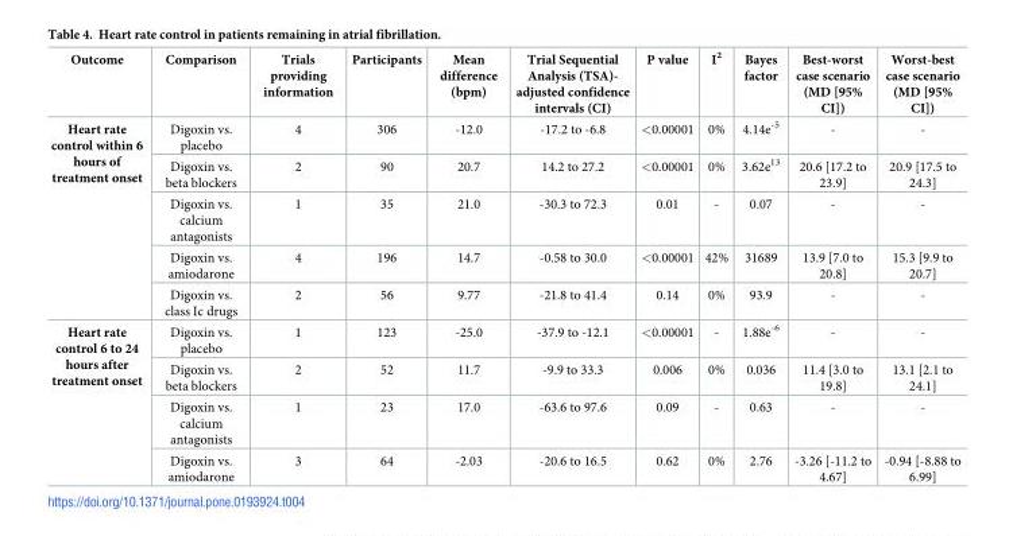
<table><thead><tr><td>Outcome</td><td>Comparison</td><td>Trials providing information</td><td>Participants</td><td>Mean difference (bpm)</td><td>Trial Sequential Analysis (TSA)- adjusted confidence intervals (CI)</td><td>P value</td><td>I<sup>2</sup></td><td>Bayes factor</td><td>Best-worst case scenario (MD [95% CI])</td><td>Worst-best case scenario (MD [95% CI])</td></tr></thead><tbody><tr><td rowspan="5">Heart rate control within 6 hours of treatment onset</td><td>Digoxin vs. placebo</td><td>4</td><td>306</td><td>-12.0</td><td>-17.2 to -6.8</td><td>&lt;0.00001</td><td>0%</td><td>4.14e<sup>-5</sup></td><td>-</td><td>-</td></tr><tr><td>Digoxin vs. beta blockers</td><td>2</td><td>90</td><td>20.7</td><td>14.2 to 27.2</td><td>&lt;0.00001</td><td>0%</td><td>3.62e<sup>13</sup></td><td>20.6 [17.2 to 23.9]</td><td>20.9 [17.5 to 24.3]</td></tr><tr><td>Digoxin vs. calcium antagonists</td><td>1</td><td>35</td><td>21.0</td><td>-30.3 to 72.3</td><td>0.01</td><td>-</td><td>0.07</td><td>-</td><td>-</td></tr><tr><td>Digoxin vs. amiodarone</td><td>4</td><td>196</td><td>14.7</td><td>-0.58 to 30.0</td><td>&lt;0.00001</td><td>42%</td><td>31689</td><td>13.9 [7.0 to 20.8]</td><td>15.3 [9.9 to 20.7]</td></tr><tr><td>Digoxin vs. class Ic drugs</td><td>2</td><td>56</td><td>9.77</td><td>-21.8 to 41.4</td><td>0.14</td><td>0%</td><td>93.9</td><td>-</td><td>-</td></tr><tr><td rowspan="4">Heart rate control 6 to 24 hours after treatment onset</td><td>Digoxin vs. placebo</td><td>1</td><td>123</td><td>-25.0</td><td>-37.9 to -12.1</td><td>&lt;0.00001</td><td>-</td><td>1.88e<sup>-6</sup></td><td>-</td><td>-</td></tr><tr><td>Digoxin vs. beta blockers</td><td>2</td><td>52</td><td>11.7</td><td>-9.9 to 33.3</td><td>0.006</td><td>0%</td><td>0.036</td><td>11.4 [3.0 to 19.8]</td><td>13.1 [2.1 to 24.1]</td></tr><tr><td>Digoxin vs. calcium antagonists</td><td>1</td><td>23</td><td>17.0</td><td>-63.6 to 97.6</td><td>0.09</td><td>-</td><td>0.63</td><td>-</td><td>-</td></tr><tr><td>Digoxin vs. amiodarone</td><td>3</td><td>64</td><td>-2.03</td><td>-20.6 to 16.5</td><td>0.62</td><td>0%</td><td>2.76</td><td>-3.26 [-11.2 to 4.67]</td><td>-0.94 [-8.88 to 6.99]</td></tr></tbody></table>